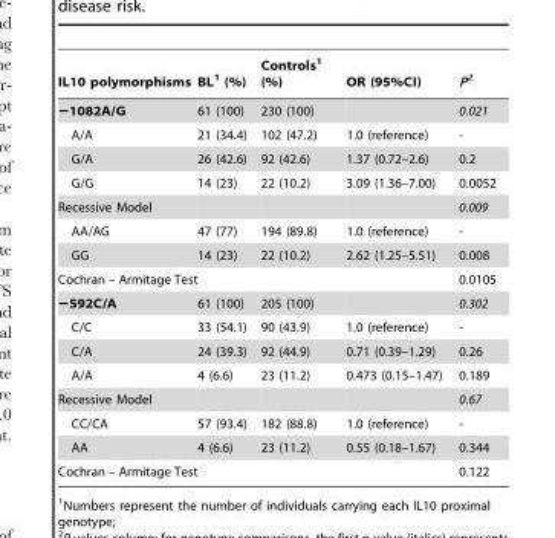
<table><thead><tr><td>IL10 polymorphisms</td><td>BL<sup>1</sup> (%)</td><td>Controls<sup>1</sup> (%)</td><td>OR (95%CI)</td><td>P2</td></tr></thead><tbody><tr><td>−1082A/G</td><td>61 (100)</td><td>230 (100)</td><td></td><td>0.021</td></tr><tr><td>A/A</td><td>21 (34.4)</td><td>102 (47.2)</td><td>1.0 (reference)</td><td>-</td></tr><tr><td>G/A</td><td>26 (42.6)</td><td>92 (42.6)</td><td>1.37 (0.72–2.6)</td><td>0.2</td></tr><tr><td>G/G</td><td>14 (23)</td><td>22 (10.2)</td><td>3.09 (1.36–7.00)</td><td>0.0052</td></tr><tr><td>Recessive Model</td><td></td><td></td><td></td><td>0.009</td></tr><tr><td>AA/AG</td><td>47 (77)</td><td>194 (89.8)</td><td>1.0 (reference)</td><td>-</td></tr><tr><td>GG</td><td>14 (23)</td><td>22 (10.2)</td><td>2.62 (1.25–5.51)</td><td>0.008</td></tr><tr><td>Cochran – Armitage Test</td><td></td><td></td><td></td><td>0.0105</td></tr><tr><td>−592C/A</td><td>61 (100)</td><td>205 (100)</td><td></td><td>0.302</td></tr><tr><td>C/C</td><td>33 (54.1)</td><td>90 (43.9)</td><td>1.0 (reference)</td><td>-</td></tr><tr><td>C/A</td><td>24 (39.3)</td><td>92 (44.9)</td><td>0.71 (0.39–1.29)</td><td>0.26</td></tr><tr><td>A/A</td><td>4 (6.6)</td><td>23 (11.2)</td><td>0.473 (0.15–1.47)</td><td>0.189</td></tr><tr><td>Recessive Model</td><td></td><td></td><td></td><td>0.67</td></tr><tr><td>CC/CA</td><td>57 (93.4)</td><td>182 (88.8)</td><td>1.0 (reference)</td><td>-</td></tr><tr><td>AA</td><td>4 (6.6)</td><td>23 (11.2)</td><td>0.55 (0.18–1.67)</td><td>0.344</td></tr><tr><td>Cochran – Armitage Test</td><td></td><td></td><td></td><td>0.122</td></tr></tbody></table>